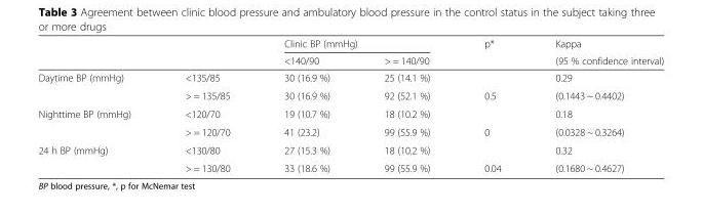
<table><thead><tr><td rowspan="2"></td><td rowspan="2"></td><td colspan="2">Clinic BP (mmHg)</td><td rowspan="2">p*</td><td rowspan="2">Kappa (95 % confidence interval)</td></tr><tr><td>&lt;140/90</td><td>&gt; = 140/90</td></tr></thead><tbody><tr><td rowspan="2">Daytime BP (mmHg)</td><td>&lt;135/85</td><td>30 (16.9 %)</td><td>25 (14.1 %)</td><td></td><td>0.29</td></tr><tr><td>&gt; = 135/85</td><td>30 (16.9 %)</td><td>92 (52.1 %)</td><td>0.5</td><td>(0.1443 ~ 0.4402)</td></tr><tr><td rowspan="2">Nighttime BP (mmHg)</td><td>&lt;120/70</td><td>19 (10.7 %)</td><td>18 (10.2 %)</td><td></td><td>0.18</td></tr><tr><td>&gt; = 120/70</td><td>41 (23.2)</td><td>99 (55.9 %)</td><td>0</td><td>(0.0328 ~ 0.3264)</td></tr><tr><td rowspan="2">24 h BP (mmHg)</td><td>&lt;130/80</td><td>27 (15.3 %)</td><td>18 (10.2 %)</td><td></td><td>0.32</td></tr><tr><td>&gt; = 130/80</td><td>33 (18.6 %)</td><td>99 (55.9 %)</td><td>0.04</td><td>(0.1680 ~ 0.4627)</td></tr></tbody></table>